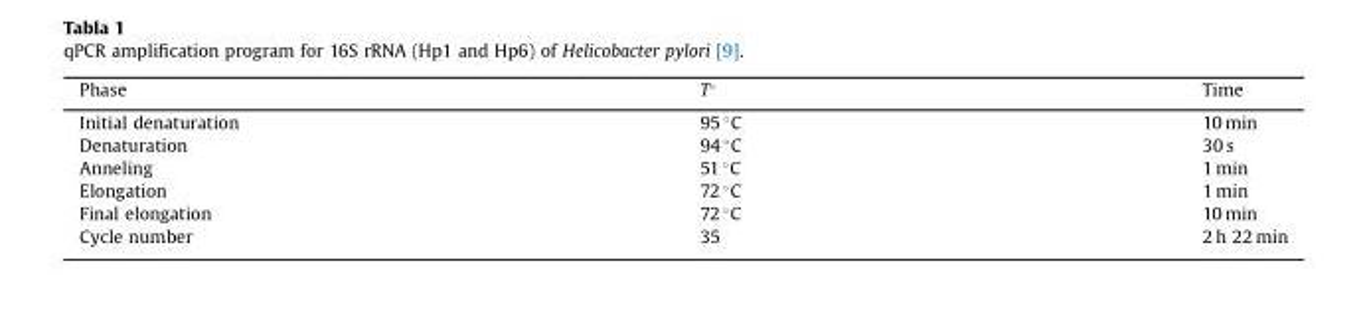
<table><thead><tr><td>Phase</td><td>T°</td><td>Time</td></tr></thead><tbody><tr><td>Initial denaturation</td><td>95 °C</td><td>10 min</td></tr><tr><td>Denaturation</td><td>94 °C</td><td>30 s</td></tr><tr><td>Anneling</td><td>51 °C</td><td>1 min</td></tr><tr><td>Elongation</td><td>72 °C</td><td>1 min</td></tr><tr><td>Final elongation</td><td>72 °C</td><td>10 min</td></tr><tr><td>Cycle number</td><td>35</td><td>2 h 22 min</td></tr></tbody></table>